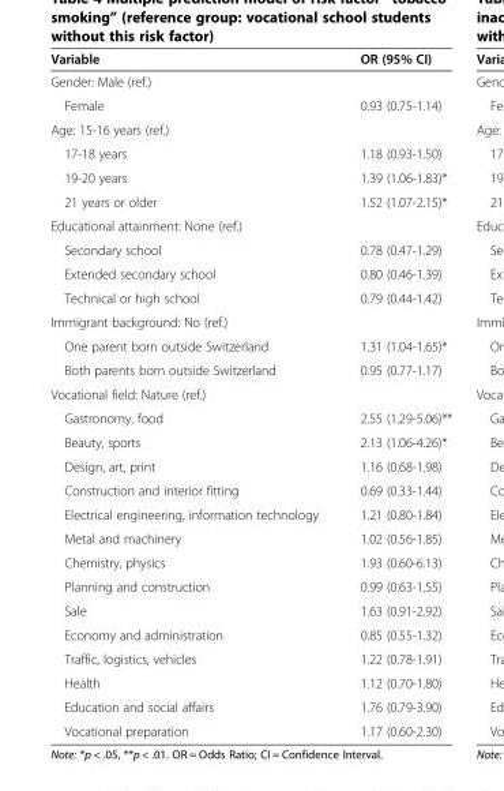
<table><thead><tr><td>Variable</td><td>OR (95% CI)</td></tr></thead><tbody><tr><td colspan="2">Gender: Male (ref.)</td></tr><tr><td>Female</td><td>0.93 (0.75-1.14)</td></tr><tr><td colspan="2">Age: 15-16 years (ref.)</td></tr><tr><td>17-18 years</td><td>1.18 (0.93-1.50)</td></tr><tr><td>19-20 years</td><td>1.39 (1.06-1.83)*</td></tr><tr><td>21 years or older</td><td>1.52 (1.07-2.15)*</td></tr><tr><td colspan="2">Educational attainment: None (ref.)</td></tr><tr><td>Secondary school</td><td>0.78 (0.47-1.29)</td></tr><tr><td>Extended secondary school</td><td>0.80 (0.46-1.39)</td></tr><tr><td>Technical or high school</td><td>0.79 (0.44-1.42)</td></tr><tr><td colspan="2">Immigrant background: No (ref.)</td></tr><tr><td>One parent born outside Switzerland</td><td>1.31 (1.04-1.65)*</td></tr><tr><td>Both parents born outside Switzerland</td><td>0.95 (0.77-1.17)</td></tr><tr><td colspan="2">Vocational field: Nature (ref.)</td></tr><tr><td>Gastronomy, food</td><td>2.55 (1.29-5.06)**</td></tr><tr><td>Beauty, sports</td><td>2.13 (1.06-4.26)*</td></tr><tr><td>Design, art, print</td><td>1.16 (0.68-1.98)</td></tr><tr><td>Construction and interior fitting</td><td>0.69 (0.33-1.44)</td></tr><tr><td>Electrical engineering, information technology</td><td>1.21 (0.80-1.84)</td></tr><tr><td>Metal and machinery</td><td>1.02 (0.56-1.85)</td></tr><tr><td>Chemistry, physics</td><td>1.93 (0.60-6.13)</td></tr><tr><td>Planning and construction</td><td>0.99 (0.63-1.55)</td></tr><tr><td>Sale</td><td>1.63 (0.91-2.92)</td></tr><tr><td>Economy and administration</td><td>0.85 (0.55-1.32)</td></tr><tr><td>Traffic, logistics, vehicles</td><td>1.22 (0.78-1.91)</td></tr><tr><td>Health</td><td>1.12 (0.70-1.80)</td></tr><tr><td>Education and social affairs</td><td>1.76 (0.79-3.90)</td></tr><tr><td>Vocational preparation</td><td>1.17 (0.60-2.30)</td></tr></tbody></table>